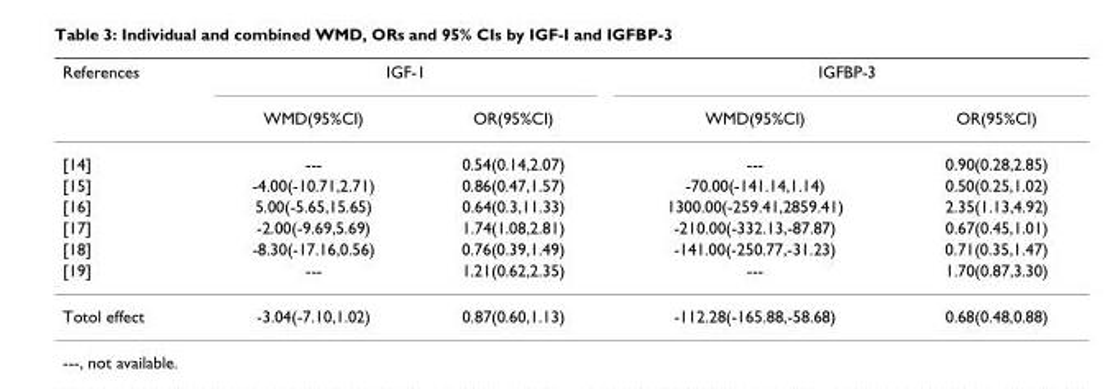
<table><thead><tr><td rowspan="2">References</td><td colspan="2">IGF-1</td><td colspan="2">IGFBP-3</td></tr><tr><td>WMD(95%CI)</td><td>OR(95%CI)</td><td>WMD(95%CI)</td><td>OR(95%CI)</td></tr></thead><tbody><tr><td>[14]</td><td>---</td><td>0.54(0.14,2.07)</td><td>---</td><td>0.90(0.28,2.85)</td></tr><tr><td>[15]</td><td>-4.00(-10.71,2.71)</td><td>0.86(0.47,1.57)</td><td>-70.00(-141.14,1.14)</td><td>0.50(0.25,1.02)</td></tr><tr><td>[16]</td><td>5.00(-5.65,15.65)</td><td>0.64(0.3,11.33)</td><td>1300.00(-259.41,2859.41)</td><td>2.35(1.13,4.92)</td></tr><tr><td>[17]</td><td>-2.00(-9.69,5.69)</td><td>1.74(1.08,2.81)</td><td>-210.00(-332.13,-87.87)</td><td>0.67(0.45,1.01)</td></tr><tr><td>[18]</td><td>-8.30(-17.16,0.56)</td><td>0.76(0.39,1.49)</td><td>-141.00(-250.77,-31.23)</td><td>0.71(0.35,1.47)</td></tr><tr><td>[19]</td><td>---</td><td>1.21(0.62,2.35)</td><td>---</td><td>1.70(0.87,3.30)</td></tr><tr><td>Totol effect</td><td>-3.04(-7.10,1.02)</td><td>0.87(0.60,1.13)</td><td>-112.28(-165.88,-58.68)</td><td>0.68(0.48,0.88)</td></tr></tbody></table>